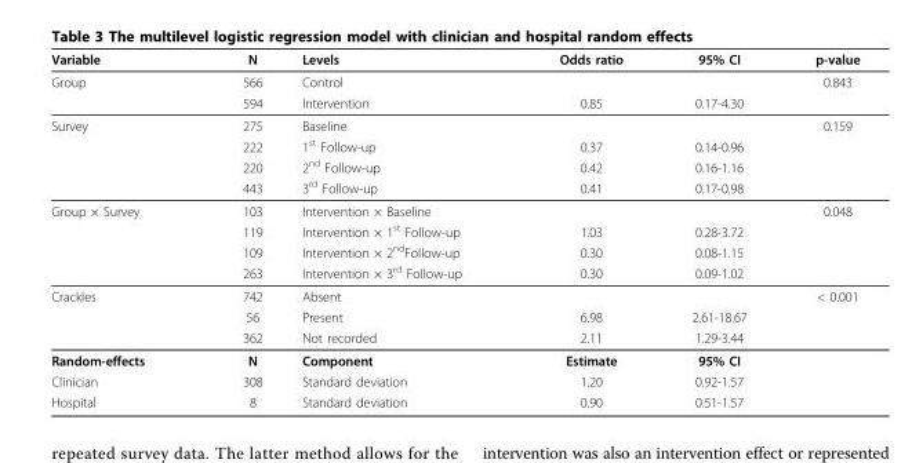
<table><thead><tr><td>Variable</td><td>N</td><td>Levels</td><td>Odds ratio</td><td>95% CI</td><td>p-value</td></tr></thead><tbody><tr><td rowspan="2">Group</td><td>566</td><td>Control</td><td></td><td></td><td>0.843</td></tr><tr><td>594</td><td>Intervention</td><td>0.85</td><td>0.17-4.30</td><td></td></tr><tr><td rowspan="4">Survey</td><td>275</td><td>Baseline</td><td></td><td></td><td>0.159</td></tr><tr><td>222</td><td>1<sup>st</sup> Follow-up</td><td>0.37</td><td>0.14-0.96</td><td></td></tr><tr><td>220</td><td>2<sup>nd</sup> Follow-up</td><td>0.42</td><td>0.16-1.16</td><td></td></tr><tr><td>443</td><td>3<sup>rd</sup> Follow-up</td><td>0.41</td><td>0.17-0.98</td><td></td></tr><tr><td rowspan="4">Group × Survey</td><td>103</td><td>Intervention × Baseline</td><td></td><td></td><td>0.048</td></tr><tr><td>119</td><td>Intervention × 1<sup>st</sup> Follow-up</td><td>1.03</td><td>0.28-3.72</td><td></td></tr><tr><td>109</td><td>Intervention × 2<sup>nd</sup>Follow-up</td><td>0.30</td><td>0.08-1.15</td><td></td></tr><tr><td>263</td><td>Intervention × 3<sup>rd</sup> Follow-up</td><td>0.30</td><td>0.09-1.02</td><td></td></tr><tr><td rowspan="3">Crackles</td><td>742</td><td>Absent</td><td></td><td></td><td>&lt; 0.001</td></tr><tr><td>56</td><td>Present</td><td>6.98</td><td>2.61-18.67</td><td></td></tr><tr><td>362</td><td>Not recorded</td><td>2.11</td><td>1.29-3.44</td><td></td></tr><tr><td>Random-effects</td><td>N</td><td>Component</td><td>Estimate</td><td>95% CI</td><td></td></tr><tr><td>Clinician</td><td>308</td><td>Standard deviation</td><td>1.20</td><td>0.92-1.57</td><td></td></tr><tr><td>Hospital</td><td>8</td><td>Standard deviation</td><td>0.90</td><td>0.51-1.57</td><td></td></tr></tbody></table>